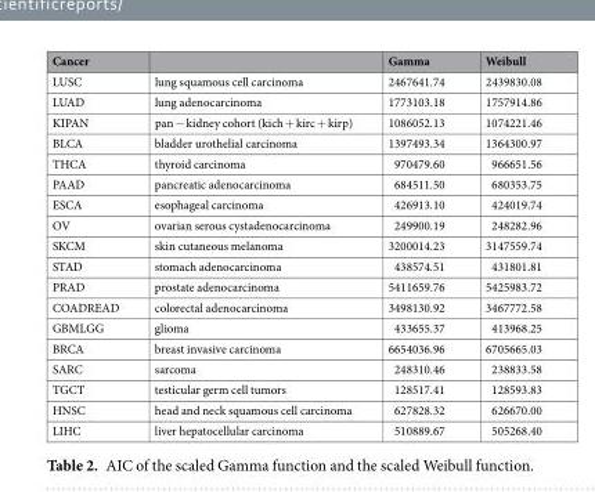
<table><thead><tr><td>Cancer</td><td></td><td>Gamma</td><td>Weibull</td></tr></thead><tbody><tr><td>LUSC</td><td>lung squamous cell carcinoma</td><td>2467641.74</td><td>2439830.08</td></tr><tr><td>LUAD</td><td>lung adenocarcinoma</td><td>1773103.18</td><td>1757914.86</td></tr><tr><td>KIPAN</td><td>pan − kidney cohort (kich + kirc + kirp)</td><td>1086052.13</td><td>1074221.46</td></tr><tr><td>BLCA</td><td>bladder urothelial carcinoma</td><td>1397493.34</td><td>1364300.97</td></tr><tr><td>THCA</td><td>thyroid carcinoma</td><td>970479.60</td><td>966651.56</td></tr><tr><td>PAAD</td><td>pancreatic adenocarcinoma</td><td>684511.50</td><td>680353.75</td></tr><tr><td>ESCA</td><td>esophageal carcinoma</td><td>426913.10</td><td>424019.74</td></tr><tr><td>OV</td><td>ovarian serous cystadenocarcinoma</td><td>249900.19</td><td>248282.96</td></tr><tr><td>SKCM</td><td>skin cutaneous melanoma</td><td>3200014.23</td><td>3147559.74</td></tr><tr><td>STAD</td><td>stomach adenocarcinoma</td><td>438574.51</td><td>431801.81</td></tr><tr><td>PRAD</td><td>prostate adenocarcinoma</td><td>5411659.76</td><td>5425983.72</td></tr><tr><td>COADREAD</td><td>colorectal adenocarcinoma</td><td>3498130.92</td><td>3467772.58</td></tr><tr><td>GBMLGG</td><td>glioma</td><td>433655.37</td><td>413968.25</td></tr><tr><td>BRCA</td><td>breast invasive carcinoma</td><td>6654036.96</td><td>6705665.03</td></tr><tr><td>SARC</td><td>sarcoma</td><td>248310.46</td><td>238833.58</td></tr><tr><td>TGCT</td><td>testicular germ cell tumors</td><td>128517.41</td><td>128593.83</td></tr><tr><td>HNSC</td><td>head and neck squamous cell carcinoma</td><td>627828.32</td><td>626670.00</td></tr><tr><td>LIHC</td><td>liver hepatocellular carcinoma</td><td>510889.67</td><td>505268.40</td></tr></tbody></table>